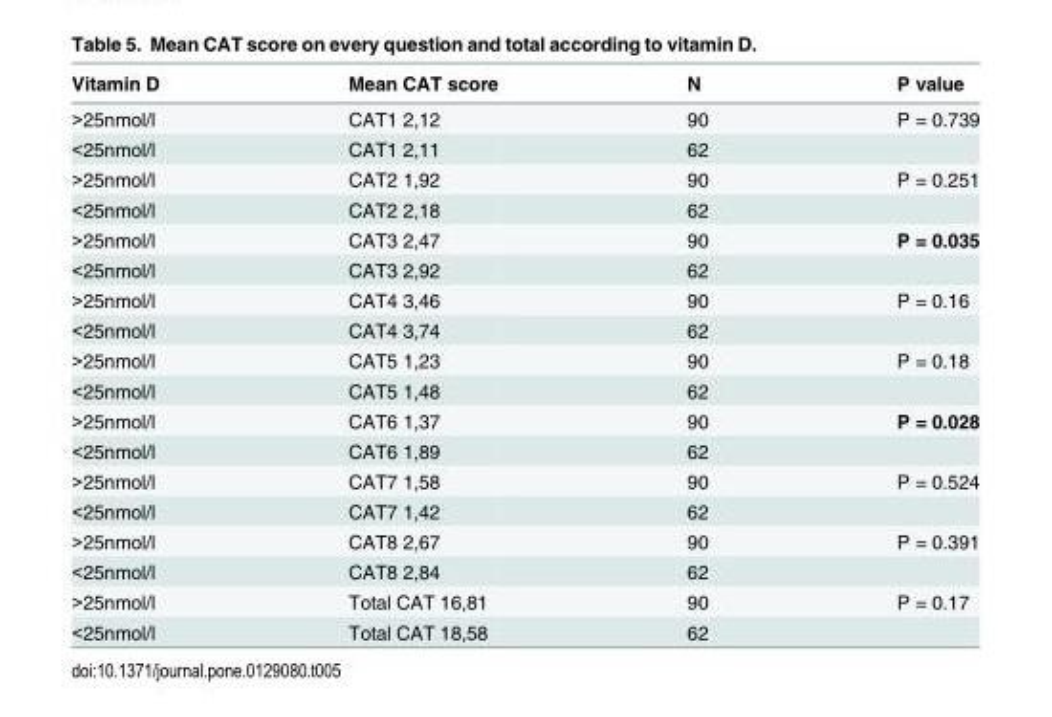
<table><thead><tr><td>Vitamin D</td><td>Mean CAT score</td><td>N</td><td>P value</td></tr></thead><tbody><tr><td>&gt;25nmol/l</td><td>CAT1 2,12</td><td>90</td><td>P = 0.739</td></tr><tr><td>&lt;25nmol/l</td><td>CAT1 2,11</td><td>62</td><td></td></tr><tr><td>&gt;25nmol/l</td><td>CAT2 1,92</td><td>90</td><td>P = 0.251</td></tr><tr><td>&lt;25nmol/l</td><td>CAT2 2,18</td><td>62</td><td></td></tr><tr><td>&gt;25nmol/l</td><td>CAT3 2,47</td><td>90</td><td>P = 0.035</td></tr><tr><td>&lt;25nmol/l</td><td>CAT3 2,92</td><td>62</td><td></td></tr><tr><td>&gt;25nmol/l</td><td>CAT4 3,46</td><td>90</td><td>P = 0.16</td></tr><tr><td>&lt;25nmol/l</td><td>CAT4 3,74</td><td>62</td><td></td></tr><tr><td>&gt;25nmol/l</td><td>CAT5 1,23</td><td>90</td><td>P = 0.18</td></tr><tr><td>&lt;25nmol/l</td><td>CAT5 1,48</td><td>62</td><td></td></tr><tr><td>&gt;25nmol/l</td><td>CAT6 1,37</td><td>90</td><td>P = 0.028</td></tr><tr><td>&lt;25nmol/l</td><td>CAT6 1,89</td><td>62</td><td></td></tr><tr><td>&gt;25nmol/l</td><td>CAT7 1,58</td><td>90</td><td>P = 0.524</td></tr><tr><td>&lt;25nmol/l</td><td>CAT7 1,42</td><td>62</td><td></td></tr><tr><td>&gt;25nmol/l</td><td>CAT8 2,67</td><td>90</td><td>P = 0.391</td></tr><tr><td>&lt;25nmol/l</td><td>CAT8 2,84</td><td>62</td><td></td></tr><tr><td>&gt;25nmol/l</td><td>Total CAT 16,81</td><td>90</td><td>P = 0.17</td></tr><tr><td>&lt;25nmol/l</td><td>Total CAT 18,58</td><td>62</td><td></td></tr></tbody></table>